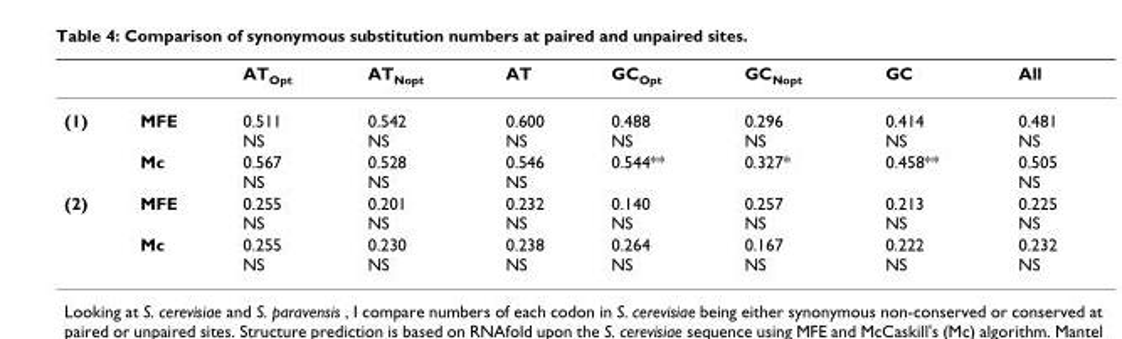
<table><thead><tr><td></td><td></td><td>AT<sub>Opt</sub></td><td>AT<sub>Nopt</sub></td><td>AT</td><td>GC<sub>Opt</sub></td><td>GC<sub>Nopt</sub></td><td>GC</td><td>All</td></tr></thead><tbody><tr><td rowspan="2">(1)</td><td>MFE</td><td>0.511 NS</td><td>0.542 NS</td><td>0.600 NS</td><td>0.488 NS</td><td>0.296 NS</td><td>0.414 NS</td><td>0.481 NS</td></tr><tr><td>Mc</td><td>0.567 NS</td><td>0.528 NS</td><td>0.546 NS</td><td>0.544**</td><td>0.327*</td><td>0.458**</td><td>0.505 NS</td></tr><tr><td rowspan="2">(2)</td><td>MFE</td><td>0.255 NS</td><td>0.201 NS</td><td>0.232 NS</td><td>0.140 NS</td><td>0.257 NS</td><td>0.213 NS</td><td>0.225 NS</td></tr><tr><td>Mc</td><td>0.255 NS</td><td>0.230 NS</td><td>0.238 NS</td><td>0.264 NS</td><td>0.167 NS</td><td>0.222 NS</td><td>0.232 NS</td></tr></tbody></table>